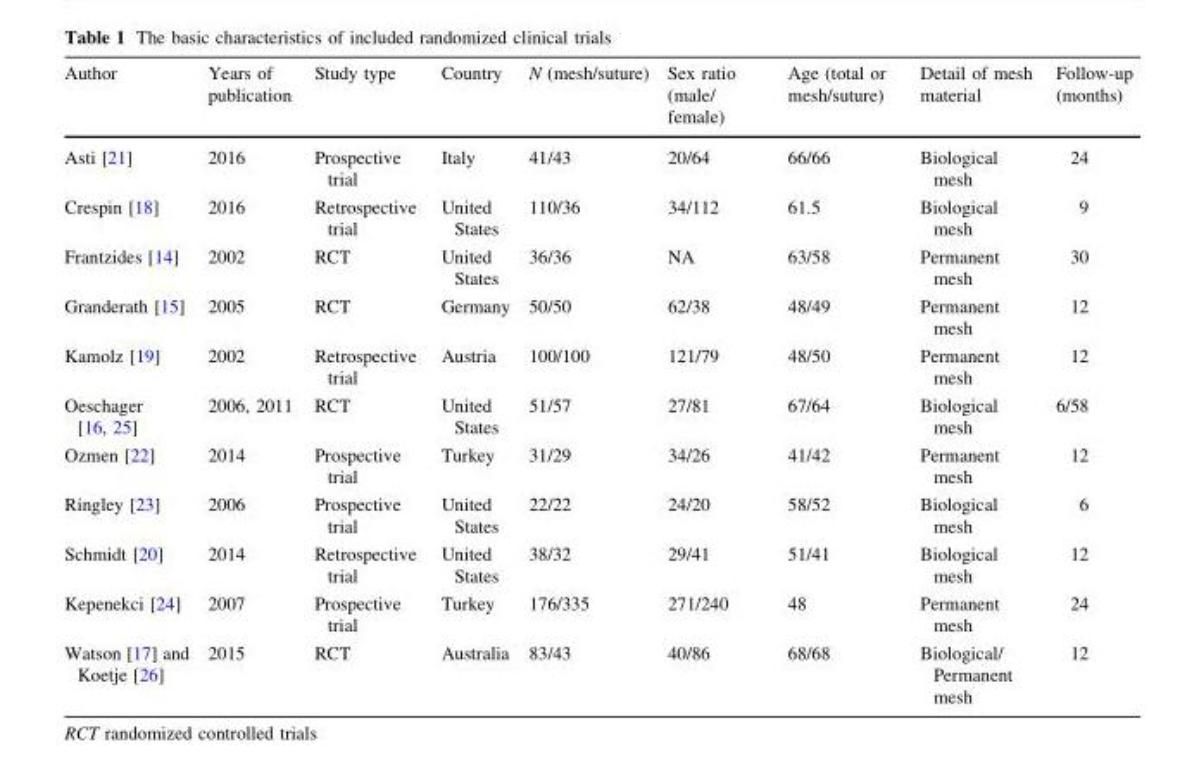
<table><thead><tr><td>Author</td><td>Years of publication</td><td>Study type</td><td>Country</td><td>N (mesh/suture)</td><td>Sex ratio (male/ female)</td><td>Age (total or mesh/suture)</td><td>Detail of mesh material</td><td>Follow-up (months)</td></tr></thead><tbody><tr><td>Asti [21]</td><td>2016</td><td>Prospective trial</td><td>Italy</td><td>41/43</td><td>20/64</td><td>66/66</td><td>Biological mesh</td><td>24</td></tr><tr><td>Crespin [18]</td><td>2016</td><td>Retrospective trial</td><td>United States</td><td>110/36</td><td>34/112</td><td>61.5</td><td>Biological mesh</td><td>9</td></tr><tr><td>Frantzides [14]</td><td>2002</td><td>RCT</td><td>United States</td><td>36/36</td><td>NA</td><td>63/58</td><td>Permanent mesh</td><td>30</td></tr><tr><td>Granderath [15]</td><td>2005</td><td>RCT</td><td>Germany</td><td>50/50</td><td>62/38</td><td>48/49</td><td>Permanent mesh</td><td>12</td></tr><tr><td>Kamolz [19]</td><td>2002</td><td>Retrospective trial</td><td>Austria</td><td>100/100</td><td>121/79</td><td>48/50</td><td>Permanent mesh</td><td>12</td></tr><tr><td>Oeschager [16, 25]</td><td>2006, 2011</td><td>RCT</td><td>United States</td><td>51/57</td><td>27/81</td><td>67/64</td><td>Biological mesh</td><td>6/58</td></tr><tr><td>Ozmen [22]</td><td>2014</td><td>Prospective trial</td><td>Turkey</td><td>31/29</td><td>34/26</td><td>41/42</td><td>Permanent mesh</td><td>12</td></tr><tr><td>Ringley [23]</td><td>2006</td><td>Prospective trial</td><td>United States</td><td>22/22</td><td>24/20</td><td>58/52</td><td>Biological mesh</td><td>6</td></tr><tr><td>Schmidt [20]</td><td>2014</td><td>Retrospective trial</td><td>United States</td><td>38/32</td><td>29/41</td><td>51/41</td><td>Biological mesh</td><td>12</td></tr><tr><td>Kepenekci [24]</td><td>2007</td><td>Prospective trial</td><td>Turkey</td><td>176/335</td><td>271/240</td><td>48</td><td>Permanent mesh</td><td>24</td></tr><tr><td>Watson [17] and Koetje [26]</td><td>2015</td><td>RCT</td><td>Australia</td><td>83/43</td><td>40/86</td><td>68/68</td><td>Biological/ Permanent mesh</td><td>12</td></tr></tbody></table>